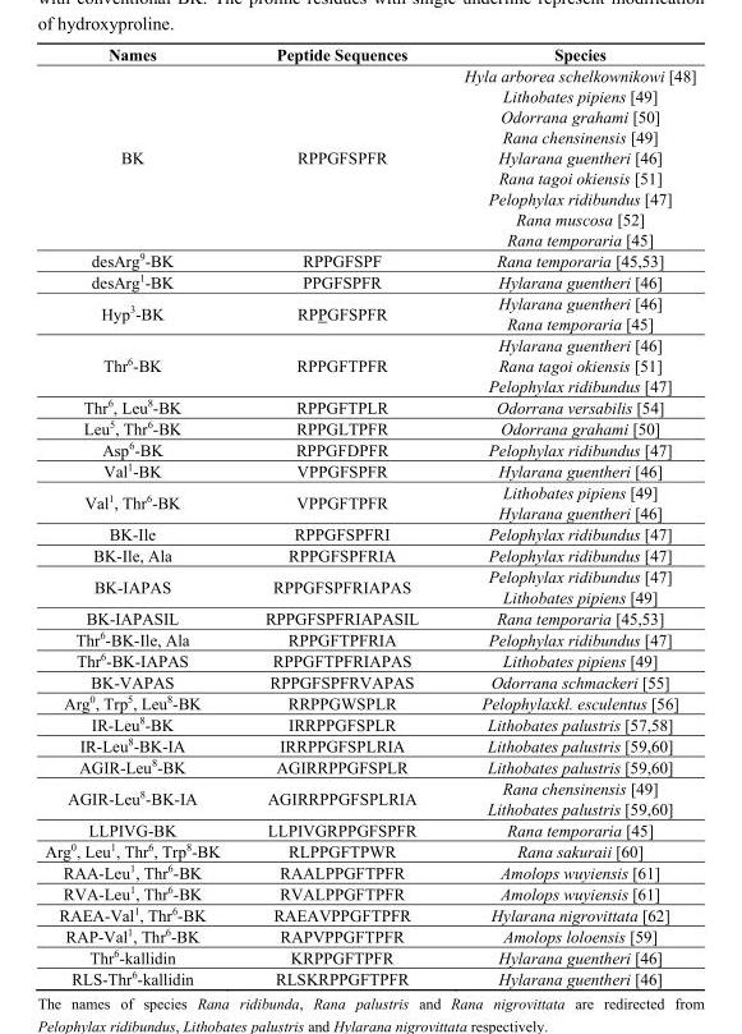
<table><thead><tr><td>Names</td><td>Peptide Sequences</td><td>Species</td></tr></thead><tbody><tr><td>BK</td><td>RPPGFSPFR</td><td>Hyla arborea schelkownikowi [48] Lithobates pipiens [49] Odorrana grahami [50] Rana chensinensis [49] Hylarana guentheri [46] Rana tagoi okiensis [51] Pelophylax ridibundus [47] Rana muscosa [52] Rana temporaria [45]</td></tr><tr><td>desArg<sup>9</sup>-BK</td><td>RPPGFSPF</td><td>Rana temporaria [45,53]</td></tr><tr><td>desArg<sup>1</sup>-BK</td><td>PPGFSPFR</td><td>Hylarana guentheri [46]</td></tr><tr><td>Hyp<sup>3</sup>-BK</td><td>RPPGFSPFR</td><td>Hylarana guentheri [46] Rana temporaria [45]</td></tr><tr><td>Thr<sup>6</sup>-BK</td><td>RPPGFTPFR</td><td>Hylarana guentheri [46] Rana tagoi okiensis [51] Pelophylax ridibundus [47]</td></tr><tr><td>Thr<sup>6</sup>, Leu<sup>8</sup>-BK</td><td>RPPGFTPLR</td><td>Odorrana versabilis [54]</td></tr><tr><td>Leu<sup>5</sup>, Thr<sup>6</sup>-BK</td><td>RPPGLTPFR</td><td>Odorrana grahami [50]</td></tr><tr><td>Asp<sup>6</sup>-BK</td><td>RPPGFDPFR</td><td>Pelophylax ridibundus [47]</td></tr><tr><td>Val<sup>1</sup>-BK</td><td>VPPGFSPFR</td><td>Hylarana guentheri [46]</td></tr><tr><td>Val<sup>1</sup>, Thr<sup>6</sup>-BK</td><td>VPPGFTPFR</td><td>Lithobates pipiens [49] Hylarana guentheri [46]</td></tr><tr><td>BK-Ile</td><td>RPPGFSPFRI</td><td>Pelophylax ridibundus [47]</td></tr><tr><td>BK-Ile, Ala</td><td>RPPGFSPFRIA</td><td>Pelophylax ridibundus [47]</td></tr><tr><td>BK-IAPAS</td><td>RPPGFSPFRIAPAS</td><td>Pelophylax ridibundus [47] Lithobates pipiens [49]</td></tr><tr><td>BK-IAPASIL</td><td>RPPGFSPFRIAPASIL</td><td>Rana temporaria [45,53]</td></tr><tr><td>Thr<sup>6</sup>-BK-Ile, Ala</td><td>RPPGFTPFRIA</td><td>Pelophylax ridibundus [47]</td></tr><tr><td>Thr<sup>6</sup>-BK-IAPAS</td><td>RPPGFTPFRIAPAS</td><td>Lithobates pipiens [49]</td></tr><tr><td>BK-VAPAS</td><td>RPPGFSPFRVAPAS</td><td>Odorrana schmackeri [55]</td></tr><tr><td>Arg<sup>0</sup>, Trp<sup>5</sup>, Leu<sup>8</sup>-BK</td><td>RRPPGWSPLR</td><td>Pelophylaxkl. esculentus [56]</td></tr><tr><td>IR-Leu<sup>8</sup>-BK</td><td>IRRPPGFSPLR</td><td>Lithobates palustris [57,58]</td></tr><tr><td>IR-Leu<sup>8</sup>-BK-IA</td><td>IRRPPGFSPLRIA</td><td>Lithobates palustris [59,60]</td></tr><tr><td>AGIR-Leu<sup>8</sup>-BK</td><td>AGIRRPPGFSPLR</td><td>Lithobates palustris [59,60]</td></tr><tr><td>AGIR-Leu<sup>8</sup>-BK-IA</td><td>AGIRRPPGFSPLRIA</td><td>Rana chensinensis [49] Lithobates palustris [59,60]</td></tr><tr><td>LLPIVG-BK</td><td>LLPIVGRPPGFSPFR</td><td>Rana temporaria [45]</td></tr><tr><td>Arg<sup>0</sup>, Leu<sup>1</sup>, Thr<sup>6</sup>, Trp<sup>8</sup>-BK</td><td>RLPPGFTPWR</td><td>Rana sakuraii [60]</td></tr><tr><td>RAA-Leu<sup>1</sup>, Thr<sup>6</sup>-BK</td><td>RAALPPGFTPFR</td><td>Amolops wuyiensis [61]</td></tr><tr><td>RVA-Leu<sup>1</sup>, Thr<sup>6</sup>-BK</td><td>RVALPPGFTPFR</td><td>Amolops wuyiensis [61]</td></tr><tr><td>RAEA-Val<sup>1</sup>, Thr<sup>6</sup>-BK</td><td>RAEAVPPGFTPFR</td><td>Hylarana nigrovittata [62]</td></tr><tr><td>RAP-Val<sup>1</sup>, Thr<sup>6</sup>-BK</td><td>RAPVPPGFTPFR</td><td>Amolops loloensis [59]</td></tr><tr><td>Thr<sup>6</sup>-kallidin</td><td>KRPPGFTPFR</td><td>Hylarana guentheri [46]</td></tr><tr><td>RLS-Thr<sup>6</sup>-kallidin</td><td>RLSKRPPGFTPFR</td><td>Hylarana guentheri [46]</td></tr></tbody></table>